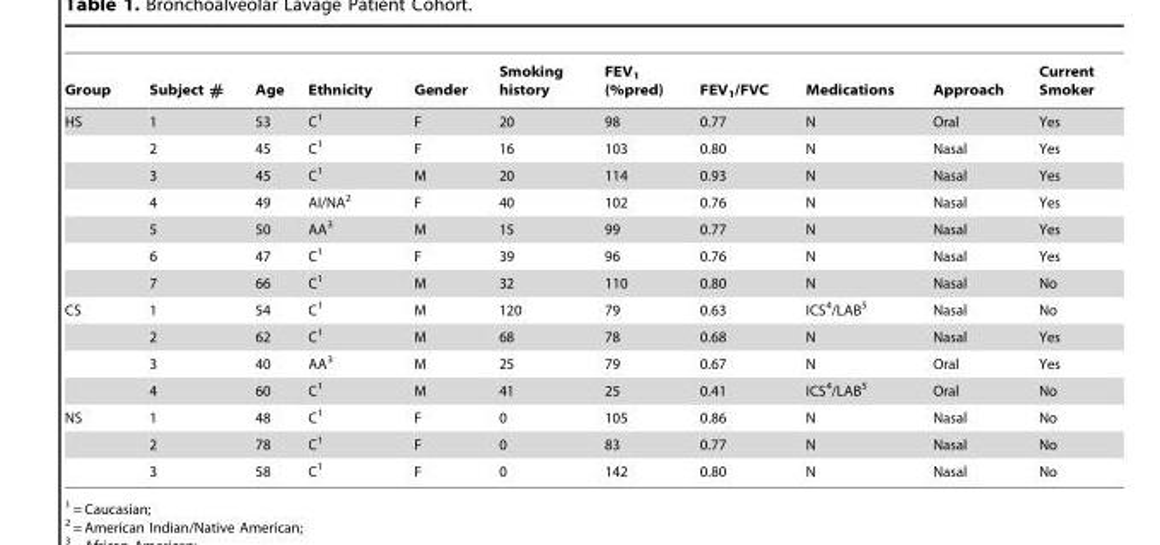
<table><thead><tr><td>Group</td><td>Subject #</td><td>Age</td><td>Ethnicity</td><td>Gender</td><td>Smoking history</td><td>FEV<sub>1</sub> (%pred)</td><td>FEV<sub>1</sub>/FVC</td><td>Medications</td><td>Approach</td><td>Current Smoker</td></tr></thead><tbody><tr><td rowspan="7">HS</td><td>1</td><td>53</td><td>C<sup>1</sup></td><td>F</td><td>20</td><td>98</td><td>0.77</td><td>N</td><td>Oral</td><td>Yes</td></tr><tr><td>2</td><td>45</td><td>C<sup>1</sup></td><td>F</td><td>16</td><td>103</td><td>0.80</td><td>N</td><td>Nasal</td><td>Yes</td></tr><tr><td>3</td><td>45</td><td>C<sup>1</sup></td><td>M</td><td>20</td><td>114</td><td>0.93</td><td>N</td><td>Nasal</td><td>Yes</td></tr><tr><td>4</td><td>49</td><td>AI/NA<sup>2</sup></td><td>F</td><td>40</td><td>102</td><td>0.76</td><td>N</td><td>Nasal</td><td>Yes</td></tr><tr><td>5</td><td>50</td><td>AA<sup>3</sup></td><td>M</td><td>15</td><td>99</td><td>0.77</td><td>N</td><td>Nasal</td><td>Yes</td></tr><tr><td>6</td><td>47</td><td>C<sup>1</sup></td><td>F</td><td>39</td><td>96</td><td>0.76</td><td>N</td><td>Nasal</td><td>Yes</td></tr><tr><td>7</td><td>66</td><td>C<sup>1</sup></td><td>M</td><td>32</td><td>110</td><td>0.80</td><td>N</td><td>Nasal</td><td>No</td></tr><tr><td rowspan="4">CS</td><td>1</td><td>54</td><td>C<sup>1</sup></td><td>M</td><td>120</td><td>79</td><td>0.63</td><td>ICS<sup>4</sup>/LAB<sup>5</sup></td><td>Nasal</td><td>No</td></tr><tr><td>2</td><td>62</td><td>C<sup>1</sup></td><td>M</td><td>68</td><td>78</td><td>0.68</td><td>N</td><td>Nasal</td><td>Yes</td></tr><tr><td>3</td><td>40</td><td>AA<sup>3</sup></td><td>M</td><td>25</td><td>79</td><td>0.67</td><td>N</td><td>Oral</td><td>Yes</td></tr><tr><td>4</td><td>60</td><td>C<sup>1</sup></td><td>M</td><td>41</td><td>25</td><td>0.41</td><td>ICS<sup>4</sup>/LAB<sup>5</sup></td><td>Oral</td><td>No</td></tr><tr><td rowspan="3">NS</td><td>1</td><td>48</td><td>C<sup>1</sup></td><td>F</td><td>0</td><td>105</td><td>0.86</td><td>N</td><td>Nasal</td><td>No</td></tr><tr><td>2</td><td>78</td><td>C<sup>1</sup></td><td>F</td><td>0</td><td>83</td><td>0.77</td><td>N</td><td>Nasal</td><td>No</td></tr><tr><td>3</td><td>58</td><td>C<sup>1</sup></td><td>F</td><td>0</td><td>142</td><td>0.80</td><td>N</td><td>Nasal</td><td>No</td></tr></tbody></table>